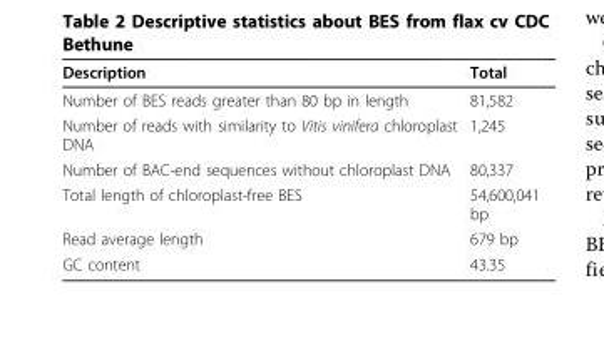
<table><thead><tr><td>Description</td><td>Total</td></tr></thead><tbody><tr><td>Number of BES reads greater than 80 bp in length</td><td>81,582</td></tr><tr><td>Number of reads with similarity to Vitis vinifera chloroplast DNA</td><td>1,245</td></tr><tr><td>Number of BAC-end sequences without chloroplast DNA</td><td>80,337</td></tr><tr><td>Total length of chloroplast-free BES</td><td>54,600,041 bp</td></tr><tr><td>Read average length</td><td>679 bp</td></tr><tr><td>GC content</td><td>43.35</td></tr></tbody></table>